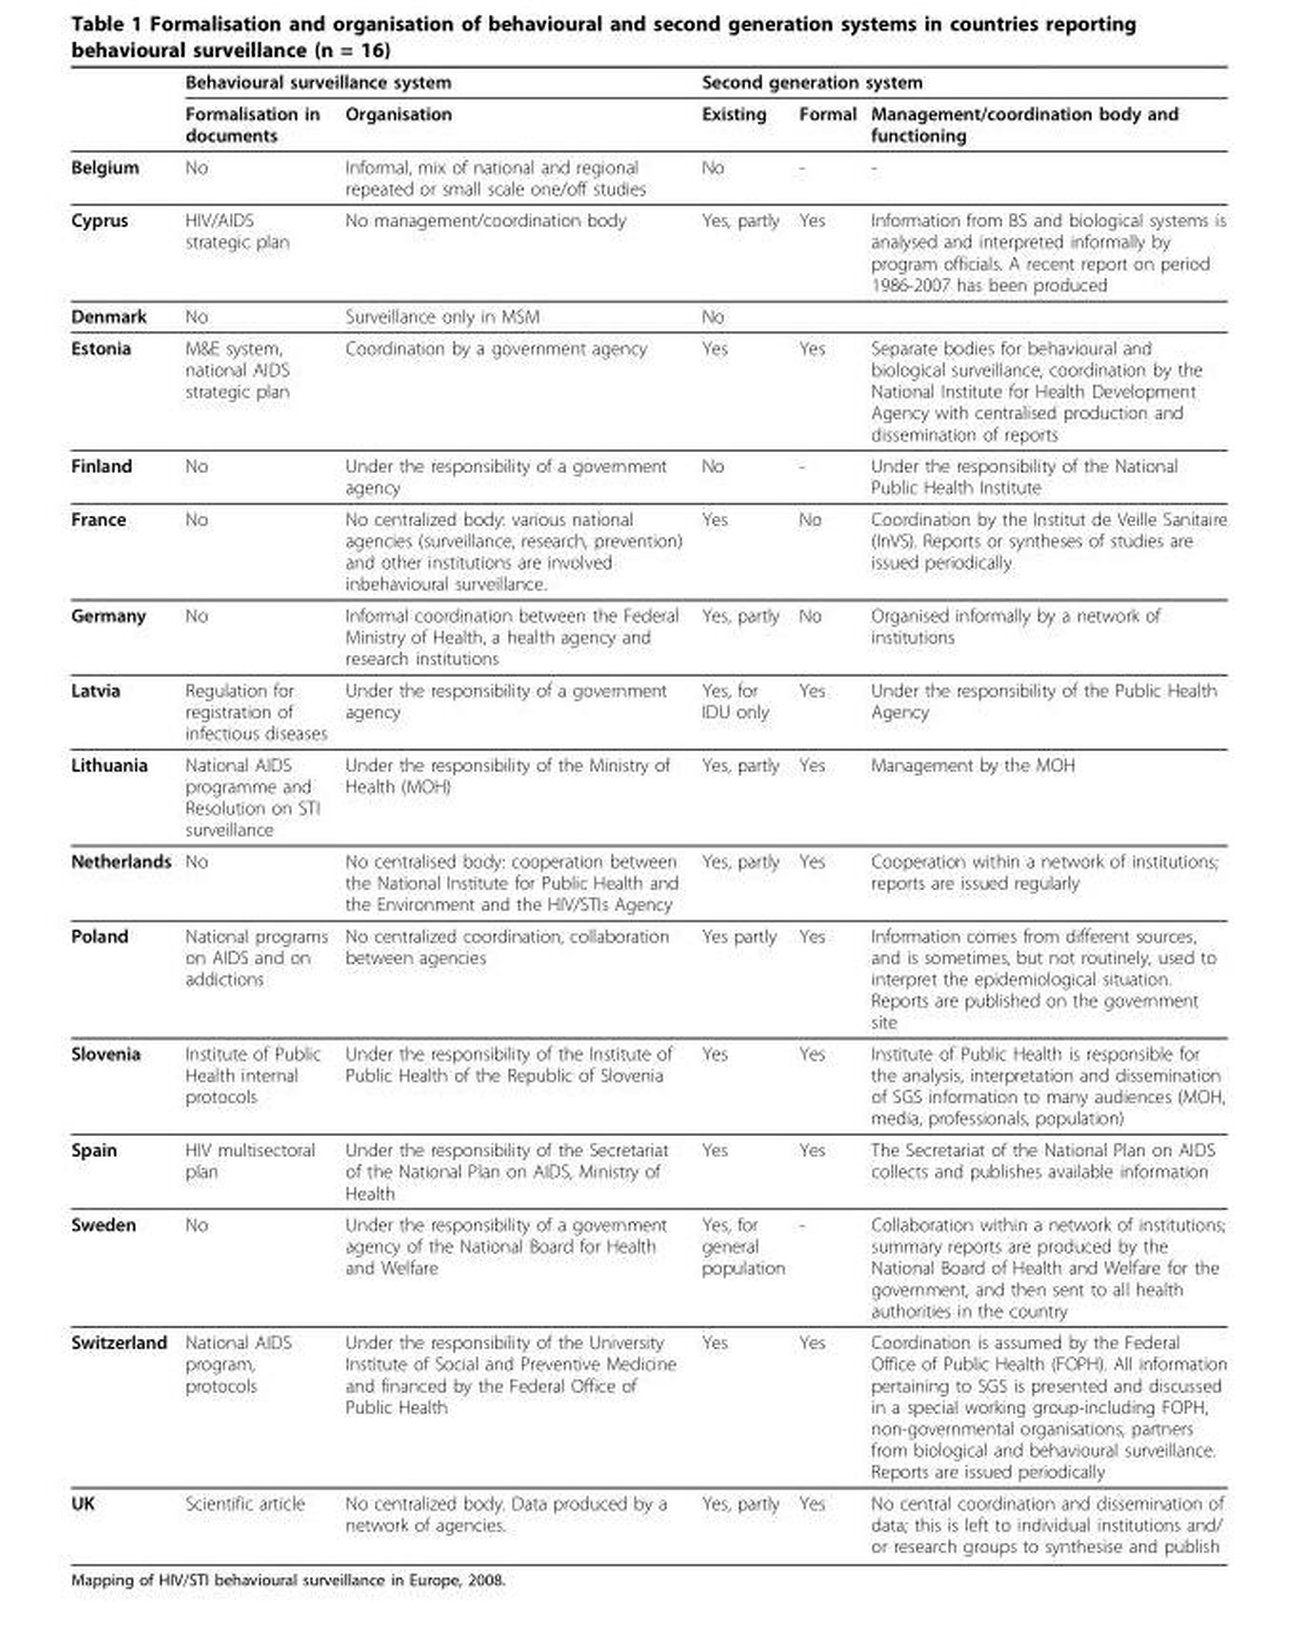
<table><thead><tr><td rowspan="2"></td><td colspan="2">Behavioural surveillance system</td><td colspan="3">Second generation system</td></tr><tr><td>Formalisation in documents</td><td>Organisation</td><td>Existing</td><td>Formal</td><td>Management/coordination body and functioning</td></tr></thead><tbody><tr><td>Belgium</td><td>No</td><td>Informal, mix of national and regional repeated or small scale one/off studies</td><td>No</td><td>-</td><td>-</td></tr><tr><td>Cyprus</td><td>HIV/AIDS strategic plan</td><td>No management/coordination body</td><td>Yes, partly</td><td>Yes</td><td>Information from BS and biological systems is analysed and interpreted informally by program officials. A recent report on period 1986-2007 has been produced</td></tr><tr><td>Denmark</td><td>No</td><td>Surveillance only in MSM</td><td>No</td><td></td><td></td></tr><tr><td>Estonia</td><td>M&amp;E system, national AIDS strategic plan</td><td>Coordination by a government agency</td><td>Yes</td><td>Yes</td><td>Separate bodies for behavioural and biological surveillance, coordination by the National Institute for Health Development Agency with centralised production and dissemination of reports</td></tr><tr><td>Finland</td><td>No</td><td>Under the responsibility of a government agency</td><td>No</td><td>-</td><td>Under the responsibility of the National Public Health Institute</td></tr><tr><td>France</td><td>No</td><td>No centralized body: various national agencies (surveillance, research, prevention) and other institutions are involved inbehavioural surveillance.</td><td>Yes</td><td>No</td><td>Coordination by the Institut de Veille Sanitaire (InVS). Reports or syntheses of studies are issued periodically</td></tr><tr><td>Germany</td><td>No</td><td>Informal coordination between the Federal Ministry of Health, a health agency and research institutions</td><td>Yes, partly</td><td>No</td><td>Organised informally by a network of institutions</td></tr><tr><td>Latvia</td><td>Regulation for registration of infectious diseases</td><td>Under the responsibility of a government agency</td><td>Yes, for IDU only</td><td>Yes</td><td>Under the responsibility of the Public Health Agency</td></tr><tr><td>Lithuania</td><td>National AIDS programme and Resolution on STI surveillance</td><td>Under the responsibility of the Ministry of Health (MOH)</td><td>Yes, partly</td><td>Yes</td><td>Management by the MOH</td></tr><tr><td>Netherlands</td><td>No</td><td>No centralised body: cooperation between the National Institute for Public Health and the Environment and the HIV/STIs Agency</td><td>Yes, partly</td><td>Yes</td><td>Cooperation within a network of institutions; reports are issued regularly</td></tr><tr><td>Poland</td><td>National programs on AIDS and on addictions</td><td>No centralized coordination, collaboration between agencies</td><td>Yes partly</td><td>Yes</td><td>Information comes from different sources, and is sometimes, but not routinely, used to interpret the epidemiological situation. Reports are published on the government site</td></tr><tr><td>Slovenia</td><td>Institute of Public Health internal protocols</td><td>Under the responsibility of the Institute of Public Health of the Republic of Slovenia</td><td>Yes</td><td>Yes</td><td>Institute of Public Health is responsible for the analysis, interpretation and dissemination of SGS information to many audiences (MOH, media, professionals, population)</td></tr><tr><td>Spain</td><td>HIV multisectoral plan</td><td>Under the responsibility of the Secretariat of the National Plan on AIDS, Ministry of Health</td><td>Yes</td><td>Yes</td><td>The Secretariat of the National Plan on AIDS collects and publishes available information</td></tr><tr><td>Sweden</td><td>No</td><td>Under the responsibility of a government agency of the National Board for Health and Welfare</td><td>Yes, for general population</td><td>-</td><td>Collaboration within a network of institutions; summary reports are produced by the National Board of Health and Welfare for the government, and then sent to all health authorities in the country</td></tr><tr><td>Switzerland</td><td>National AIDS program, protocols</td><td>Under the responsibility of the University Institute of Social and Preventive Medicine and financed by the Federal Office of Public Health</td><td>Yes</td><td>Yes</td><td>Coordination is assumed by the Federal Office of Public Health (FOPH). All information pertaining to SGS is presented and discussed in a special working group-including FOPH, non-governmental organisations, partners from biological and behavioural surveillance. Reports are issued periodically</td></tr><tr><td>UK</td><td>Scientific article</td><td>No centralized body. Data produced by a network of agencies.</td><td>Yes, partly</td><td>Yes</td><td>No central coordination and dissemination of data; this is left to individual institutions and/ or research groups to synthesise and publish</td></tr></tbody></table>